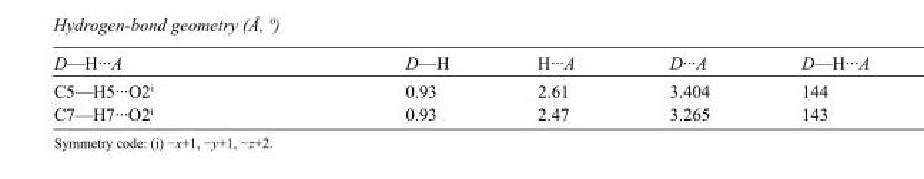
<table><tbody><tr><td>D—H···A</td><td>D—H</td><td>H···A</td><td>D···A</td><td>D—H···A</td></tr><tr><td>C5—H5···O2<sup>i</sup></td><td>0.93</td><td>2.61</td><td>3.404</td><td>144</td></tr><tr><td>C7—H7···O2<sup>i</sup></td><td>0.93</td><td>2.47</td><td>3.265</td><td>143</td></tr></tbody></table>